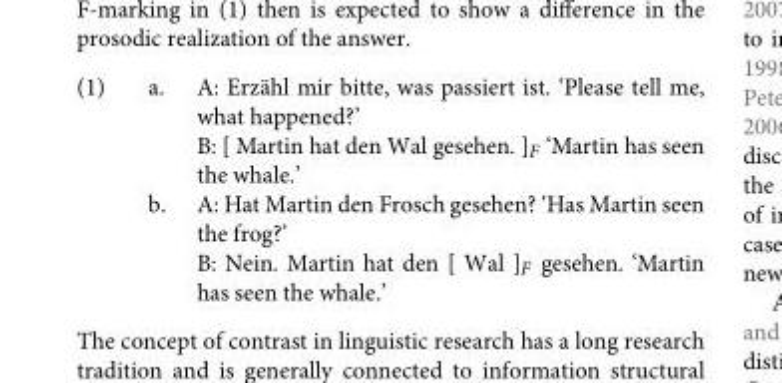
<table><tbody><tr><td rowspan="4">(1)</td><td>a.</td><td>A: Erzähl mir bitte, was passiert ist. ‘Please tell me, what happened?’</td></tr><tr><td></td><td>B: [ Martin hat den Wal gesehen. ]<sub>F</sub> ‘Martin has seen the whale.’</td></tr><tr><td>b.</td><td>A: Hat Martin den Frosch gesehen? ‘Has Martin seen the frog?’</td></tr><tr><td></td><td>B: Nein. Martin hat den [ Wal ]<sub>F</sub> gesehen. ‘Martin has seen the whale.’</td></tr></tbody></table>